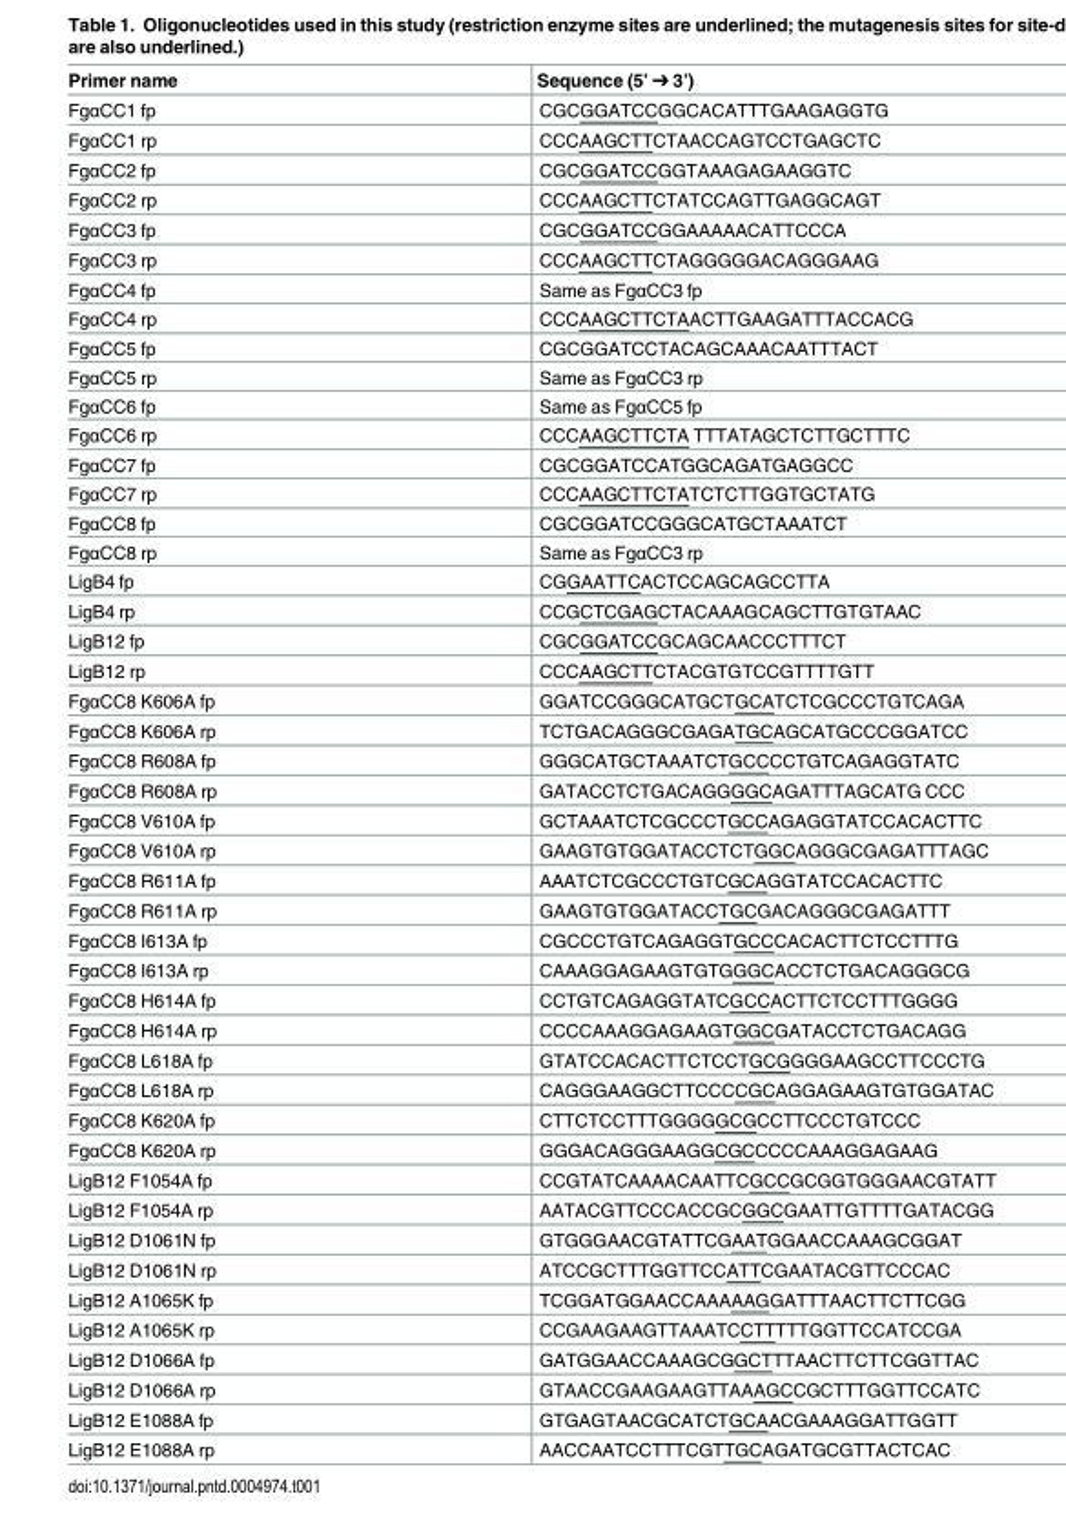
<table><thead><tr><td>Primer name</td><td>Sequence (5’ ➔ 3’)</td></tr></thead><tbody><tr><td>FgαCC1 fp</td><td>CGCGGATCCGGCACATTTGAAGAGGTG</td></tr><tr><td>FgαCC1 rp</td><td>CCCAAGCTTCTAACCAGTCCTGAGCTC</td></tr><tr><td>FgαCC2 fp</td><td>CGCGGATCCGGTAAAGAGAAGGTC</td></tr><tr><td>FgαCC2 rp</td><td>CCCAAGCTTCTATCCAGTTGAGGCAGT</td></tr><tr><td>FgαCC3 fp</td><td>CGCGGATCCGGAAAAACATTCCCA</td></tr><tr><td>FgαCC3 rp</td><td>CCCAAGCTTCTAGGGGGACAGGGAAG</td></tr><tr><td>FgαCC4 fp</td><td>Same as FgαCC3 fp</td></tr><tr><td>FgαCC4 rp</td><td>CCCAAGCTTCTAACTTGAAGATTTACCACG</td></tr><tr><td>FgαCC5 fp</td><td>CGCGGATCCTACAGCAAACAATTTACT</td></tr><tr><td>FgαCC5 rp</td><td>Same as FgαCC3 rp</td></tr><tr><td>FgαCC6 fp</td><td>Same as FgαCC5 fp</td></tr><tr><td>FgαCC6 rp</td><td>CCCAAGCTTCTA TTTATAGCTCTTGCTTTC</td></tr><tr><td>FgαCC7 fp</td><td>CGCGGATCCATGGCAGATGAGGCC</td></tr><tr><td>FgαCC7 rp</td><td>CCCAAGCTTCTATCTCTTGGTGCTATG</td></tr><tr><td>FgαCC8 fp</td><td>CGCGGATCCGGGCATGCTAAATCT</td></tr><tr><td>FgαCC8 rp</td><td>Same as FgαCC3 rp</td></tr><tr><td>LigB4 fp</td><td>CGGAATTCACTCCAGCAGCCTTA</td></tr><tr><td>LigB4 rp</td><td>CCGCTCGAGCTACAAAGCAGCTTGTGTAAC</td></tr><tr><td>LigB12 fp</td><td>CGCGGATCCGCAGCAACCCTTTCT</td></tr><tr><td>LigB12 rp</td><td>CCCAAGCTTCTACGTGTCCGTTTTGTT</td></tr><tr><td>FgαCC8 K606A fp</td><td>GGATCCGGGCATGCTGCATCTCGCCCTGTCAGA</td></tr><tr><td>FgαCC8 K606A rp</td><td>TCTGACAGGGCGAGATGCAGCATGCCCGGATCC</td></tr><tr><td>FgαCC8 R608A fp</td><td>GGGCATGCTAAATCTGCCCCTGTCAGAGGTATC</td></tr><tr><td>FgαCC8 R608A rp</td><td>GATACCTCTGACAGGGGCAGATTTAGCATG CCC</td></tr><tr><td>FgαCC8 V610A fp</td><td>GCTAAATCTCGCCCTGCCAGAGGTATCCACACTTC</td></tr><tr><td>FgαCC8 V610A rp</td><td>GAAGTGTGGATACCTCTGGCAGGGCGAGATTTAGC</td></tr><tr><td>FgαCC8 R611A fp</td><td>AAATCTCGCCCTGTCGCAGGTATCCACACTTC</td></tr><tr><td>FgαCC8 R611A rp</td><td>GAAGTGTGGATACCTGCGACAGGGCGAGATTT</td></tr><tr><td>FgαCC8 I613A fp</td><td>CGCCCTGTCAGAGGTGCCCACACTTCTCCTTTG</td></tr><tr><td>FgαCC8 I613A rp</td><td>CAAAGGAGAAGTGTGGGCACCTCTGACAGGGCG</td></tr><tr><td>FgαCC8 H614A fp</td><td>CCTGTCAGAGGTATCGCCACTTCTCCTTTGGGG</td></tr><tr><td>FgαCC8 H614A rp</td><td>CCCCAAAGGAGAAGTGGCGATACCTCTGACAGG</td></tr><tr><td>FgαCC8 L618A fp</td><td>GTATCCACACTTCTCCTGCGGGGAAGCCTTCCCTG</td></tr><tr><td>FgαCC8 L618A rp</td><td>CAGGGAAGGCTTCCCCGCAGGAGAAGTGTGGATAC</td></tr><tr><td>FgαCC8 K620A fp</td><td>CTTCTCCTTTGGGGGCGCCTTCCCTGTCCC</td></tr><tr><td>FgαCC8 K620A rp</td><td>GGGACAGGGAAGGCGCCCCCAAAGGAGAAG</td></tr><tr><td>LigB12 F1054A fp</td><td>CCGTATCAAAACAATTCGCCGCGGTGGGAACGTATT</td></tr><tr><td>LigB12 F1054A rp</td><td>AATACGTTCCCACCGCGGCGAATTGTTTTGATACGG</td></tr><tr><td>LigB12 D1061N fp</td><td>GTGGGAACGTATTCGAATGGAACCAAAGCGGAT</td></tr><tr><td>LigB12 D1061N rp</td><td>ATCCGCTTTGGTTCCATTCGAATACGTTCCCAC</td></tr><tr><td>LigB12 A1065K fp</td><td>TCGGATGGAACCAAAAAGGATTTAACTTCTTCGG</td></tr><tr><td>LigB12 A1065K rp</td><td>CCGAAGAAGTTAAATCCTTTTTGGTTCCATCCGA</td></tr><tr><td>LigB12 D1066A fp</td><td>GATGGAACCAAAGCGGCTTTAACTTCTTCGGTTAC</td></tr><tr><td>LigB12 D1066A rp</td><td>GTAACCGAAGAAGTTAAAGCCGCTTTGGTTCCATC</td></tr><tr><td>LigB12 E1088A fp</td><td>GTGAGTAACGCATCTGCAACGAAAGGATTGGTT</td></tr><tr><td>LigB12 E1088A rp</td><td>AACCAATCCTTTCGTTGCAGATGCGTTACTCAC</td></tr></tbody></table>